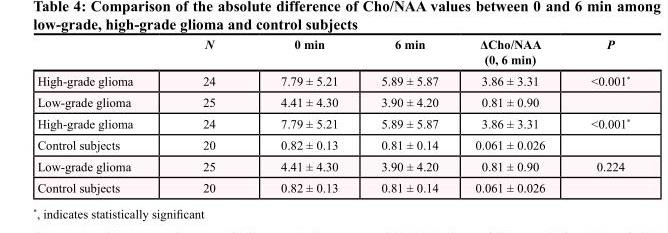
<table><thead><tr><td></td><td>N</td><td>0 min</td><td>6 min</td><td>ΔCho/NAA (0, 6 min)</td><td>P</td></tr></thead><tbody><tr><td>High-grade glioma</td><td>24</td><td>7.79 ± 5.21</td><td>5.89 ± 5.87</td><td>3.86 ± 3.31</td><td>&lt;0.001*</td></tr><tr><td>Low-grade glioma</td><td>25</td><td>4.41 ± 4.30</td><td>3.90 ± 4.20</td><td>0.81 ± 0.90</td><td></td></tr><tr><td>High-grade glioma</td><td>24</td><td>7.79 ± 5.21</td><td>5.89 ± 5.87</td><td>3.86 ± 3.31</td><td>&lt;0.001*</td></tr><tr><td>Control subjects</td><td>20</td><td>0.82 ± 0.13</td><td>0.81 ± 0.14</td><td>0.061 ± 0.026</td><td></td></tr><tr><td>Low-grade glioma</td><td>25</td><td>4.41 ± 4.30</td><td>3.90 ± 4.20</td><td>0.81 ± 0.90</td><td>0.224</td></tr><tr><td>Control subjects</td><td>20</td><td>0.82 ± 0.13</td><td>0.81 ± 0.14</td><td>0.061 ± 0.026</td><td></td></tr></tbody></table>